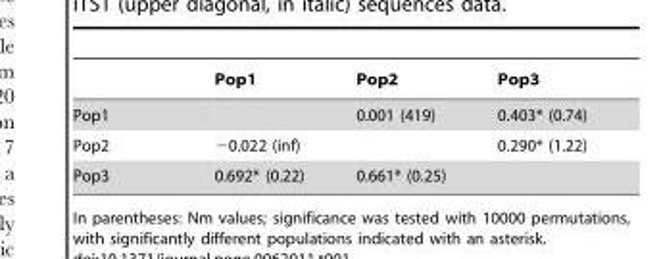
<table><thead><tr><td></td><td>Pop1</td><td>Pop2</td><td>Pop3</td></tr></thead><tbody><tr><td>Pop1</td><td></td><td>0.001 (419)</td><td>0.403* (0.74)</td></tr><tr><td>Pop2</td><td>−0.022 (inf)</td><td></td><td>0.290* (1.22)</td></tr><tr><td>Pop3</td><td>0.692* (0.22)</td><td>0.661* (0.25)</td><td></td></tr></tbody></table>